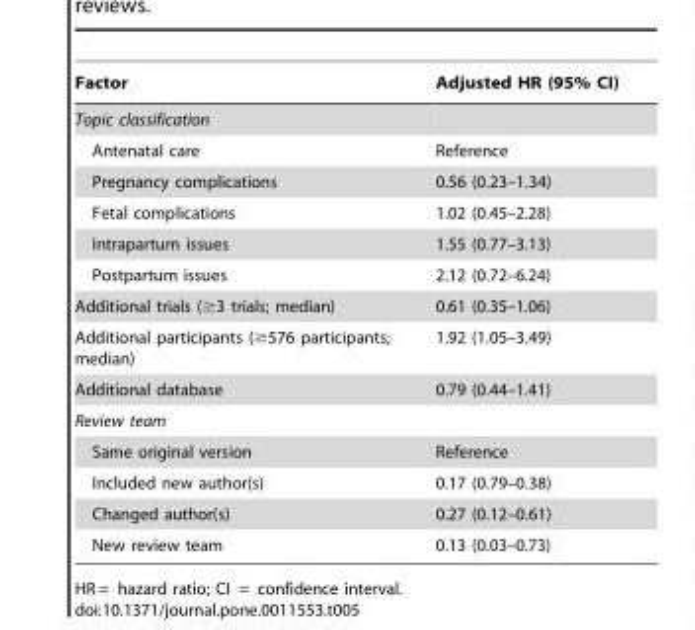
<table><thead><tr><td>Factor</td><td>Adjusted HR (95% CI)</td></tr></thead><tbody><tr><td colspan="2">Topic classification</td></tr><tr><td>Antenatal care</td><td>Reference</td></tr><tr><td>Pregnancy complications</td><td>0.56 (0.23–1.34)</td></tr><tr><td>Fetal complications</td><td>1.02 (0.45–2.28)</td></tr><tr><td>Intrapartum issues</td><td>1.55 (0.77–3.13)</td></tr><tr><td>Postpartum issues</td><td>2.12 (0.72–6.24)</td></tr><tr><td>Additional trials (≥3 trials; median)</td><td>0.61 (0.35–1.06)</td></tr><tr><td>Additional participants (≥576 participants; median)</td><td>1.92 (1.05–3.49)</td></tr><tr><td>Additional database</td><td>0.79 (0.44–1.41)</td></tr><tr><td colspan="2">Review team</td></tr><tr><td>Same original version</td><td>Reference</td></tr><tr><td>Included new author(s)</td><td>0.17 (0.79–0.38)</td></tr><tr><td>Changed author(s)</td><td>0.27 (0.12–0.61)</td></tr><tr><td>New review team</td><td>0.13 (0.03–0.73)</td></tr></tbody></table>